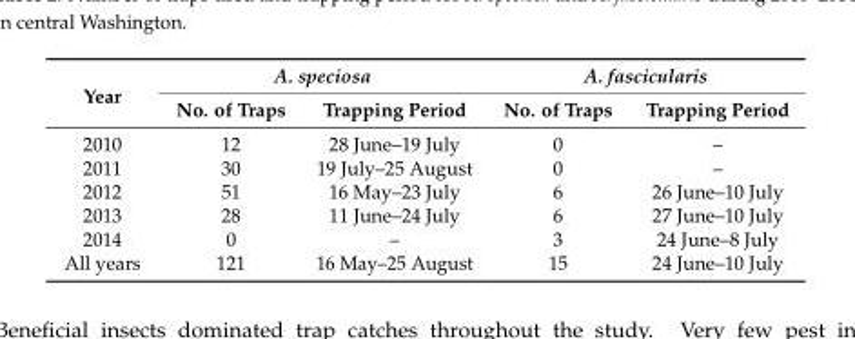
<table><thead><tr><td rowspan="2">Year</td><td colspan="2">A. speciosa</td><td colspan="2">A. fascicularis</td></tr><tr><td>No. of Traps</td><td>Trapping Period</td><td>No. of Traps</td><td>Trapping Period</td></tr></thead><tbody><tr><td>2010</td><td>12</td><td>28 June–19 July</td><td>0</td><td>–</td></tr><tr><td>2011</td><td>30</td><td>19 July–25 August</td><td>0</td><td>–</td></tr><tr><td>2012</td><td>51</td><td>16 May–23 July</td><td>6</td><td>26 June–10 July</td></tr><tr><td>2013</td><td>28</td><td>11 June–24 July</td><td>6</td><td>27 June–10 July</td></tr><tr><td>2014</td><td>0</td><td>–</td><td>3</td><td>24 June–8 July</td></tr><tr><td>All years</td><td>121</td><td>16 May–25 August</td><td>15</td><td>24 June–10 July</td></tr></tbody></table>